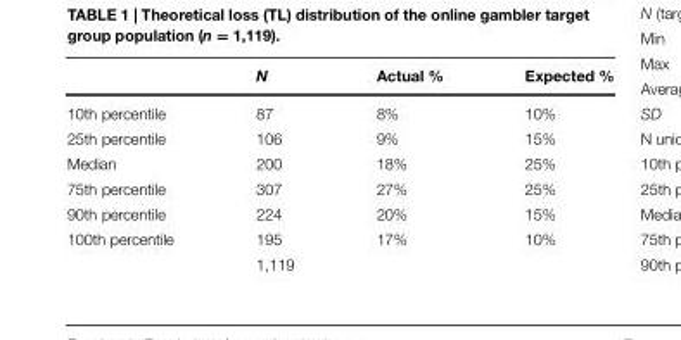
<table><thead><tr><td></td><td>N</td><td>Actual %</td><td>Expected %</td></tr></thead><tbody><tr><td>10th percentile</td><td>87</td><td>8%</td><td>10%</td></tr><tr><td>25th percentile</td><td>106</td><td>9%</td><td>15%</td></tr><tr><td>Median</td><td>200</td><td>18%</td><td>25%</td></tr><tr><td>75th percentile</td><td>307</td><td>27%</td><td>25%</td></tr><tr><td>90th percentile</td><td>224</td><td>20%</td><td>15%</td></tr><tr><td rowspan="2">100th percentile</td><td>195</td><td>17%</td><td>10%</td></tr><tr><td>1,119</td><td></td><td></td></tr></tbody></table>